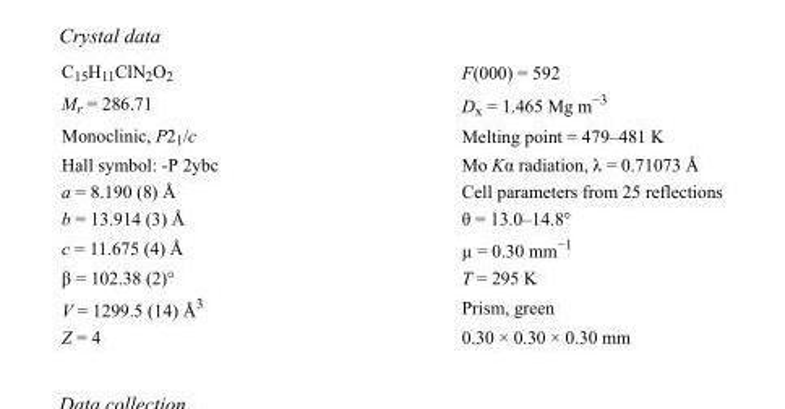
<table><tbody><tr><td>C<sub>15</sub>H<sub>11</sub>ClN<sub>2</sub>O<sub>2</sub></td><td>F(000) = 592</td></tr><tr><td>M<sub>r</sub> = 286.71</td><td>D<sub>x</sub> = 1.465 Mg m<sup>−3</sup></td></tr><tr><td>Monoclinic, P2<sub>1</sub>/c</td><td>Melting point = 479–481 K</td></tr><tr><td>Hall symbol: -P 2ybc</td><td>Mo Kα radiation, λ = 0.71073 Å</td></tr><tr><td>a = 8.190 (8) Å</td><td>Cell parameters from 25 reflections</td></tr><tr><td>b = 13.914 (3) Å</td><td>θ = 13.0–14.8°</td></tr><tr><td>c = 11.675 (4) Å</td><td>µ = 0.30 mm<sup>−1</sup></td></tr><tr><td>β = 102.38 (2)°</td><td>T = 295 K</td></tr><tr><td>V = 1299.5 (14) Å<sup>3</sup></td><td>Prism, green</td></tr><tr><td>Z = 4</td><td>0.30 × 0.30 × 0.30 mm</td></tr></tbody></table>